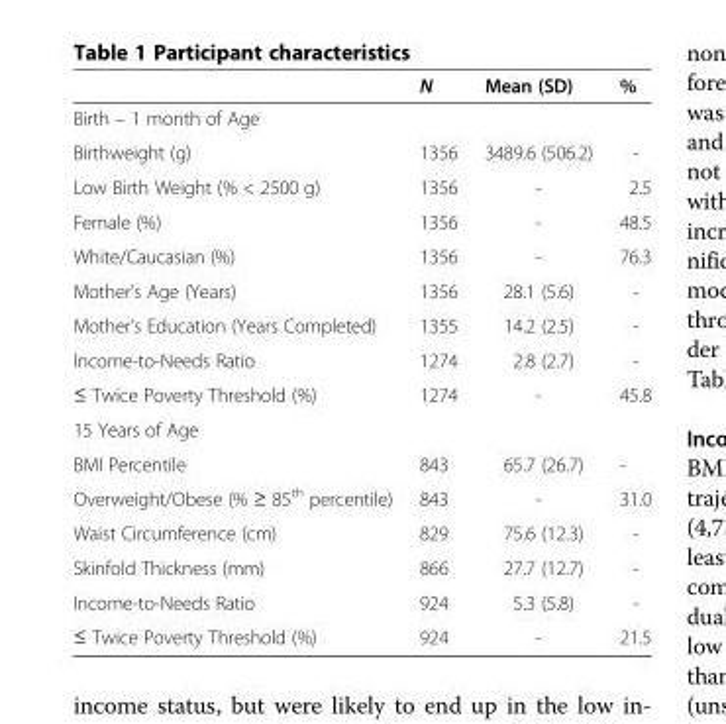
<table><thead><tr><td></td><td>N</td><td>Mean (SD)</td><td>%</td></tr></thead><tbody><tr><td colspan="4">Birth – 1 month of Age</td></tr><tr><td>Birthweight (g)</td><td>1356</td><td>3489.6 (506.2)</td><td>-</td></tr><tr><td>Low Birth Weight (% &lt; 2500 g)</td><td>1356</td><td>-</td><td>2.5</td></tr><tr><td>Female (%)</td><td>1356</td><td>-</td><td>48.5</td></tr><tr><td>White/Caucasian (%)</td><td>1356</td><td>-</td><td>76.3</td></tr><tr><td>Mother’s Age (Years)</td><td>1356</td><td>28.1 (5.6)</td><td>-</td></tr><tr><td>Mother’s Education (Years Completed)</td><td>1355</td><td>14.2 (2.5)</td><td>-</td></tr><tr><td>Income-to-Needs Ratio</td><td>1274</td><td>2.8 (2.7)</td><td>-</td></tr><tr><td>≤ Twice Poverty Threshold (%)</td><td>1274</td><td>-</td><td>45.8</td></tr><tr><td colspan="4">15 Years of Age</td></tr><tr><td>BMI Percentile</td><td>843</td><td>65.7 (26.7)</td><td>-</td></tr><tr><td>Overweight/Obese (% ≥ 85<sup>th</sup> percentile)</td><td>843</td><td>-</td><td>31.0</td></tr><tr><td>Waist Circumference (cm)</td><td>829</td><td>75.6 (12.3)</td><td>-</td></tr><tr><td>Skinfold Thickness (mm)</td><td>866</td><td>27.7 (12.7)</td><td>-</td></tr><tr><td>Income-to-Needs Ratio</td><td>924</td><td>5.3 (5.8)</td><td>-</td></tr><tr><td>≤ Twice Poverty Threshold (%)</td><td>924</td><td>-</td><td>21.5</td></tr></tbody></table>